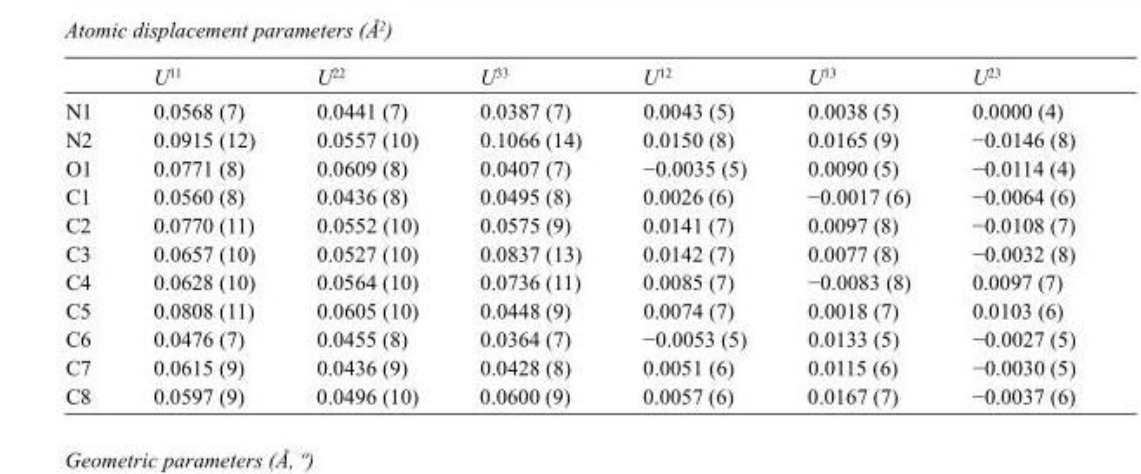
<table><thead><tr><td></td><td>U<sup>11</sup></td><td>U<sup>22</sup></td><td>U<sup>33</sup></td><td>U<sup>12</sup></td><td>U<sup>13</sup></td><td>U<sup>23</sup></td></tr></thead><tbody><tr><td>N1</td><td>0.0568 (7)</td><td>0.0441 (7)</td><td>0.0387 (7)</td><td>0.0043 (5)</td><td>0.0038 (5)</td><td>0.0000 (4)</td></tr><tr><td>N2</td><td>0.0915 (12)</td><td>0.0557 (10)</td><td>0.1066 (14)</td><td>0.0150 (8)</td><td>0.0165 (9)</td><td>−0.0146 (8)</td></tr><tr><td>O1</td><td>0.0771 (8)</td><td>0.0609 (8)</td><td>0.0407 (7)</td><td>−0.0035 (5)</td><td>0.0090 (5)</td><td>−0.0114 (4)</td></tr><tr><td>C1</td><td>0.0560 (8)</td><td>0.0436 (8)</td><td>0.0495 (8)</td><td>0.0026 (6)</td><td>−0.0017 (6)</td><td>−0.0064 (6)</td></tr><tr><td>C2</td><td>0.0770 (11)</td><td>0.0552 (10)</td><td>0.0575 (9)</td><td>0.0141 (7)</td><td>0.0097 (8)</td><td>−0.0108 (7)</td></tr><tr><td>C3</td><td>0.0657 (10)</td><td>0.0527 (10)</td><td>0.0837 (13)</td><td>0.0142 (7)</td><td>0.0077 (8)</td><td>−0.0032 (8)</td></tr><tr><td>C4</td><td>0.0628 (10)</td><td>0.0564 (10)</td><td>0.0736 (11)</td><td>0.0085 (7)</td><td>−0.0083 (8)</td><td>0.0097 (7)</td></tr><tr><td>C5</td><td>0.0808 (11)</td><td>0.0605 (10)</td><td>0.0448 (9)</td><td>0.0074 (7)</td><td>0.0018 (7)</td><td>0.0103 (6)</td></tr><tr><td>C6</td><td>0.0476 (7)</td><td>0.0455 (8)</td><td>0.0364 (7)</td><td>−0.0053 (5)</td><td>0.0133 (5)</td><td>−0.0027 (5)</td></tr><tr><td>C7</td><td>0.0615 (9)</td><td>0.0436 (9)</td><td>0.0428 (8)</td><td>0.0051 (6)</td><td>0.0115 (6)</td><td>−0.0030 (5)</td></tr><tr><td>C8</td><td>0.0597 (9)</td><td>0.0496 (10)</td><td>0.0600 (9)</td><td>0.0057 (6)</td><td>0.0167 (7)</td><td>−0.0037 (6)</td></tr></tbody></table>